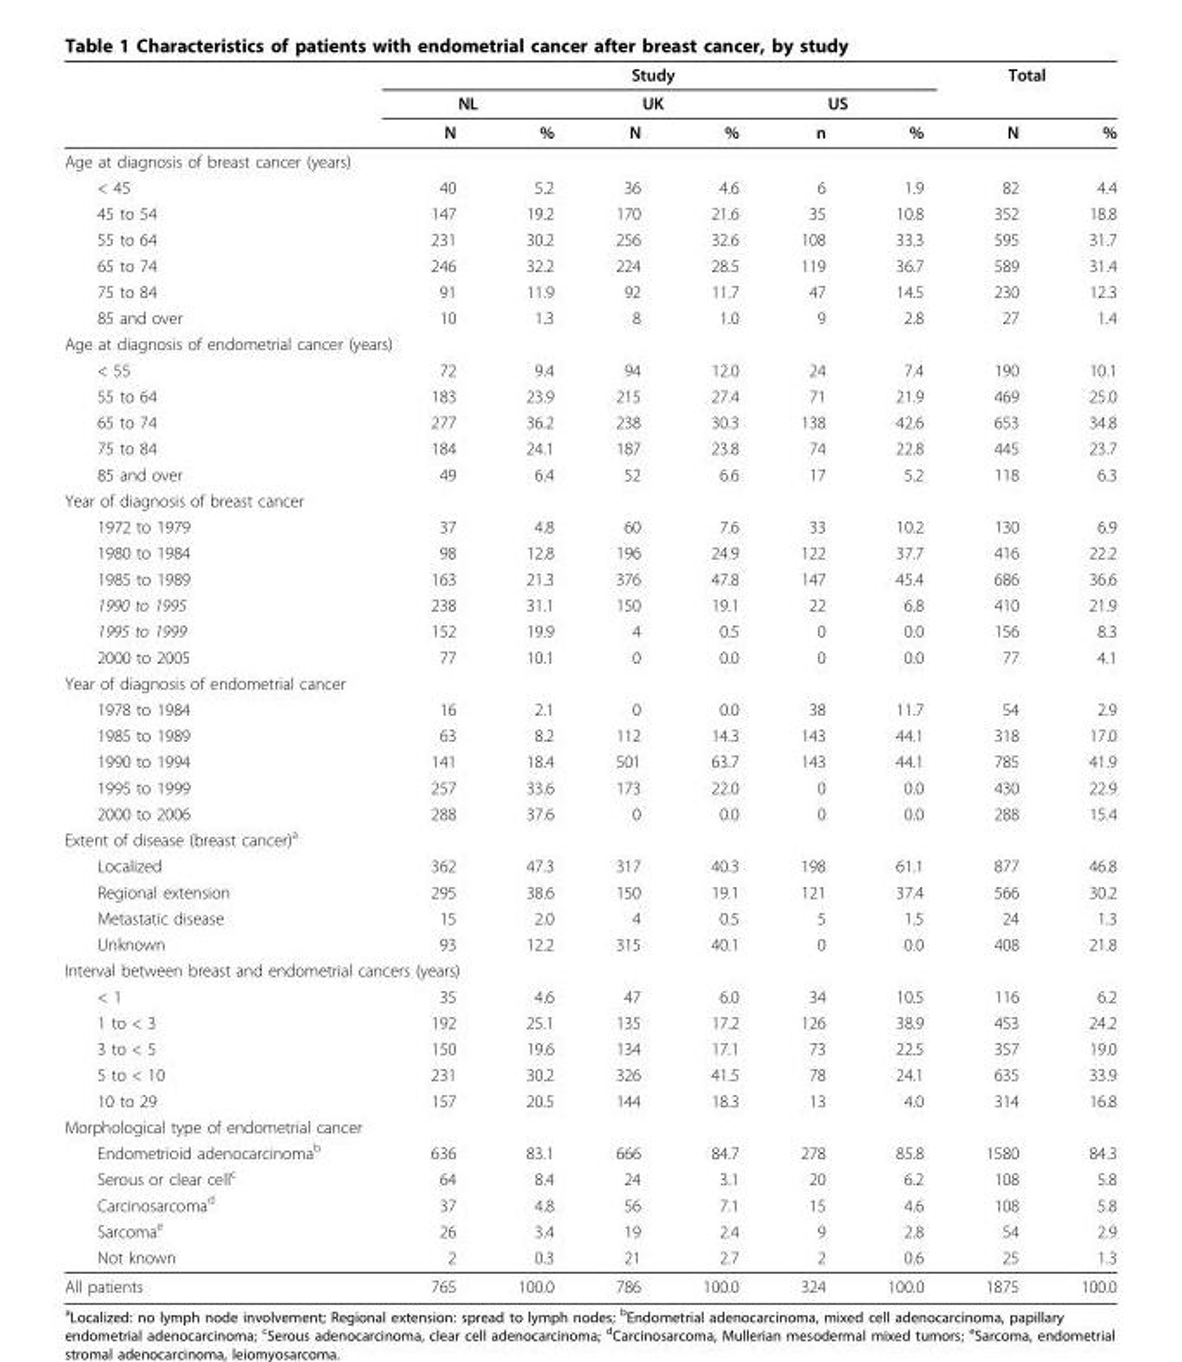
<table><thead><tr><td rowspan="3"></td><td colspan="6">Study</td><td colspan="2">Total</td></tr><tr><td colspan="2">NL</td><td colspan="2">UK</td><td colspan="2">US</td><td rowspan="2">N</td><td rowspan="2">%</td></tr><tr><td>N</td><td>%</td><td>N</td><td>%</td><td>n</td><td>%</td></tr></thead><tbody><tr><td colspan="9">Age at diagnosis of breast cancer (years)</td></tr><tr><td>&lt; 45</td><td>40</td><td>5.2</td><td>36</td><td>4.6</td><td>6</td><td>1.9</td><td>82</td><td>4.4</td></tr><tr><td>45 to 54</td><td>147</td><td>19.2</td><td>170</td><td>21.6</td><td>35</td><td>10.8</td><td>352</td><td>18.8</td></tr><tr><td>55 to 64</td><td>231</td><td>30.2</td><td>256</td><td>32.6</td><td>108</td><td>33.3</td><td>595</td><td>31.7</td></tr><tr><td>65 to 74</td><td>246</td><td>32.2</td><td>224</td><td>28.5</td><td>119</td><td>36.7</td><td>589</td><td>31.4</td></tr><tr><td>75 to 84</td><td>91</td><td>11.9</td><td>92</td><td>11.7</td><td>47</td><td>14.5</td><td>230</td><td>12.3</td></tr><tr><td>85 and over</td><td>10</td><td>1.3</td><td>8</td><td>1.0</td><td>9</td><td>2.8</td><td>27</td><td>1.4</td></tr><tr><td colspan="9">Age at diagnosis of endometrial cancer (years)</td></tr><tr><td>&lt; 55</td><td>72</td><td>9.4</td><td>94</td><td>12.0</td><td>24</td><td>7.4</td><td>190</td><td>10.1</td></tr><tr><td>55 to 64</td><td>183</td><td>23.9</td><td>215</td><td>27.4</td><td>71</td><td>21.9</td><td>469</td><td>25.0</td></tr><tr><td>65 to 74</td><td>277</td><td>36.2</td><td>238</td><td>30.3</td><td>138</td><td>42.6</td><td>653</td><td>34.8</td></tr><tr><td>75 to 84</td><td>184</td><td>24.1</td><td>187</td><td>23.8</td><td>74</td><td>22.8</td><td>445</td><td>23.7</td></tr><tr><td>85 and over</td><td>49</td><td>6.4</td><td>52</td><td>6.6</td><td>17</td><td>5.2</td><td>118</td><td>6.3</td></tr><tr><td colspan="9">Year of diagnosis of breast cancer</td></tr><tr><td>1972 to 1979</td><td>37</td><td>4.8</td><td>60</td><td>7.6</td><td>33</td><td>10.2</td><td>130</td><td>6.9</td></tr><tr><td>1980 to 1984</td><td>98</td><td>12.8</td><td>196</td><td>24.9</td><td>122</td><td>37.7</td><td>416</td><td>22.2</td></tr><tr><td>1985 to 1989</td><td>163</td><td>21.3</td><td>376</td><td>47.8</td><td>147</td><td>45.4</td><td>686</td><td>36.6</td></tr><tr><td>1990 to 1995</td><td>238</td><td>31.1</td><td>150</td><td>19.1</td><td>22</td><td>6.8</td><td>410</td><td>21.9</td></tr><tr><td>1995 to 1999</td><td>152</td><td>19.9</td><td>4</td><td>0.5</td><td>0</td><td>0.0</td><td>156</td><td>8.3</td></tr><tr><td>2000 to 2005</td><td>77</td><td>10.1</td><td>0</td><td>0.0</td><td>0</td><td>0.0</td><td>77</td><td>4.1</td></tr><tr><td colspan="9">Year of diagnosis of endometrial cancer</td></tr><tr><td>1978 to 1984</td><td>16</td><td>2.1</td><td>0</td><td>0.0</td><td>38</td><td>11.7</td><td>54</td><td>2.9</td></tr><tr><td>1985 to 1989</td><td>63</td><td>8.2</td><td>112</td><td>14.3</td><td>143</td><td>44.1</td><td>318</td><td>17.0</td></tr><tr><td>1990 to 1994</td><td>141</td><td>18.4</td><td>501</td><td>63.7</td><td>143</td><td>44.1</td><td>785</td><td>41.9</td></tr><tr><td>1995 to 1999</td><td>257</td><td>33.6</td><td>173</td><td>22.0</td><td>0</td><td>0.0</td><td>430</td><td>22.9</td></tr><tr><td>2000 to 2006</td><td>288</td><td>37.6</td><td>0</td><td>0.0</td><td>0</td><td>0.0</td><td>288</td><td>15.4</td></tr><tr><td colspan="9">Extent of disease (breast cancer)<sup>a</sup></td></tr><tr><td>Localized</td><td>362</td><td>47.3</td><td>317</td><td>40.3</td><td>198</td><td>61.1</td><td>877</td><td>46.8</td></tr><tr><td>Regional extension</td><td>295</td><td>38.6</td><td>150</td><td>19.1</td><td>121</td><td>37.4</td><td>566</td><td>30.2</td></tr><tr><td>Metastatic disease</td><td>15</td><td>2.0</td><td>4</td><td>0.5</td><td>5</td><td>1.5</td><td>24</td><td>1.3</td></tr><tr><td>Unknown</td><td>93</td><td>12.2</td><td>315</td><td>40.1</td><td>0</td><td>0.0</td><td>408</td><td>21.8</td></tr><tr><td colspan="9">Interval between breast and endometrial cancers (years)</td></tr><tr><td>&lt; 1</td><td>35</td><td>4.6</td><td>47</td><td>6.0</td><td>34</td><td>10.5</td><td>116</td><td>6.2</td></tr><tr><td>1 to &lt; 3</td><td>192</td><td>25.1</td><td>135</td><td>17.2</td><td>126</td><td>38.9</td><td>453</td><td>24.2</td></tr><tr><td>3 to &lt; 5</td><td>150</td><td>19.6</td><td>134</td><td>17.1</td><td>73</td><td>22.5</td><td>357</td><td>19.0</td></tr><tr><td>5 to &lt; 10</td><td>231</td><td>30.2</td><td>326</td><td>41.5</td><td>78</td><td>24.1</td><td>635</td><td>33.9</td></tr><tr><td>10 to 29</td><td>157</td><td>20.5</td><td>144</td><td>18.3</td><td>13</td><td>4.0</td><td>314</td><td>16.8</td></tr><tr><td colspan="9">Morphological type of endometrial cancer</td></tr><tr><td>Endometrioid adenocarcinoma<sup>b</sup></td><td>636</td><td>83.1</td><td>666</td><td>84.7</td><td>278</td><td>85.8</td><td>1580</td><td>84.3</td></tr><tr><td>Serous or clear cell<sup>c</sup></td><td>64</td><td>8.4</td><td>24</td><td>3.1</td><td>20</td><td>6.2</td><td>108</td><td>5.8</td></tr><tr><td>Carcinosarcoma<sup>d</sup></td><td>37</td><td>4.8</td><td>56</td><td>7.1</td><td>15</td><td>4.6</td><td>108</td><td>5.8</td></tr><tr><td>Sarcoma<sup>e</sup></td><td>26</td><td>3.4</td><td>19</td><td>2.4</td><td>9</td><td>2.8</td><td>54</td><td>2.9</td></tr><tr><td>Not known</td><td>2</td><td>0.3</td><td>21</td><td>2.7</td><td>2</td><td>0.6</td><td>25</td><td>1.3</td></tr><tr><td>All patients</td><td>765</td><td>100.0</td><td>786</td><td>100.0</td><td>324</td><td>100.0</td><td>1875</td><td>100.0</td></tr></tbody></table>